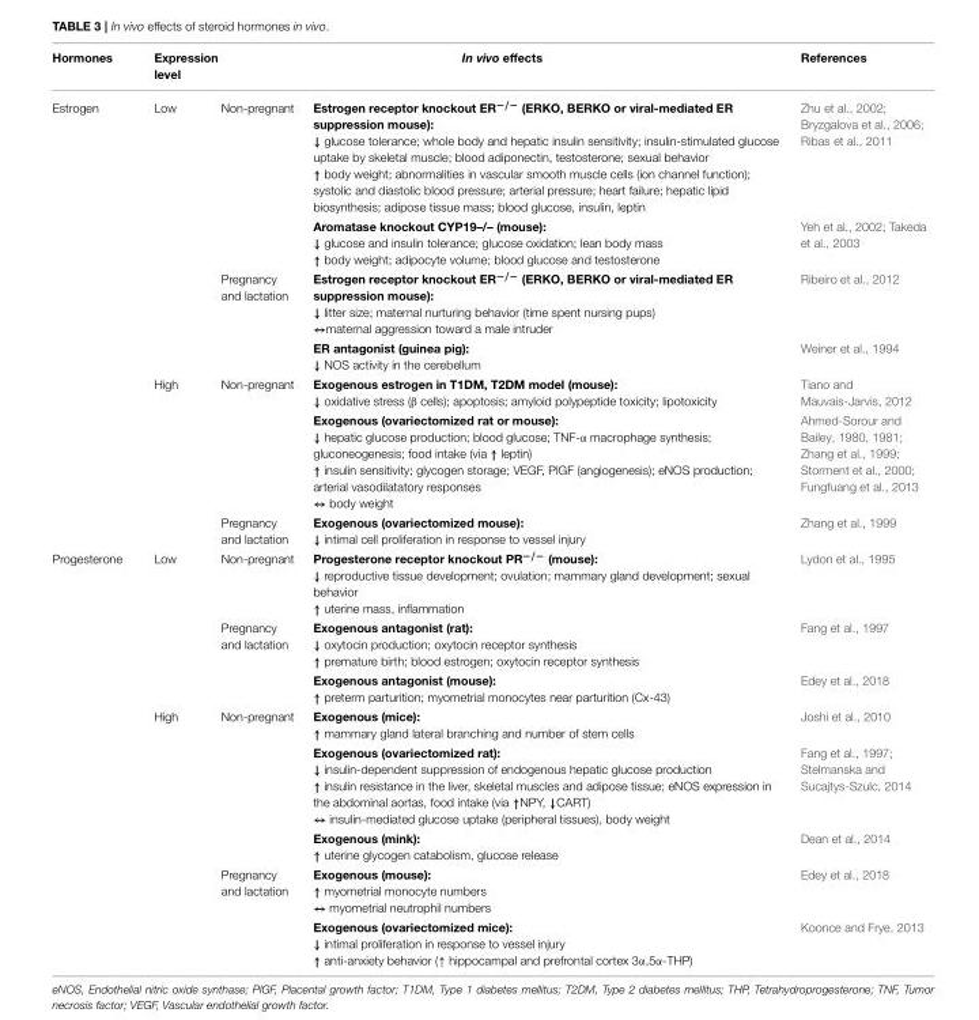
<table><thead><tr><td rowspan="2">Hormones Estrogen</td><td rowspan="2">Expression level Low</td><td colspan="2">In vivo effects</td><td rowspan="2">References Zhu et al., 2002; Bryzgalova et al., 2006; Ribas et al., 2011</td></tr><tr><td>Non-pregnant</td><td>Estrogen receptor knockout ER<sup>−/−</sup> (ERKO, BERKO or viral-mediated ER suppression mouse): ↓ glucose tolerance; whole body and hepatic insulin sensitivity; insulin-stimulated glucose uptake by skeletal muscle; blood adiponectin, testosterone; sexual behavior ↑ body weight; abnormalities in vascular smooth muscle cells (ion channel function); systolic and diastolic blood pressure; arterial pressure; heart failure; hepatic lipid biosynthesis; adipose tissue mass; blood glucose, insulin, leptin</td></tr></thead><tbody><tr><td></td><td></td><td></td><td>Aromatase knockout CYP19–/– (mouse): ↓ glucose and insulin tolerance; glucose oxidation; lean body mass ↑ body weight; adipocyte volume; blood glucose and testosterone</td><td>Yeh et al., 2002; Takeda et al., 2003</td></tr><tr><td></td><td></td><td>Pregnancy and lactation</td><td>Estrogen receptor knockout ER<sup>−/−</sup> (ERKO, BERKO or viral-mediated ER suppression mouse): ↓ litter size; maternal nurturing behavior (time spent nursing pups) ↔maternal aggression toward a male intruder</td><td>Ribeiro et al., 2012</td></tr><tr><td></td><td></td><td></td><td>ER antagonist (guinea pig): ↓ NOS activity in the cerebellum</td><td>Weiner et al., 1994</td></tr><tr><td></td><td>High</td><td>Non-pregnant</td><td>Exogenous estrogen in T1DM, T2DM model (mouse): ↓ oxidative stress (β cells); apoptosis; amyloid polypeptide toxicity; lipotoxicity</td><td>Tiano and Mauvais-Jarvis, 2012</td></tr><tr><td></td><td></td><td></td><td>Exogenous (ovariectomized rat or mouse): ↓ hepatic glucose production; blood glucose; TNF-α macrophage synthesis; gluconeogenesis; food intake (via ↑ leptin) ↑ insulin sensitivity; glycogen storage; VEGF, PlGF (angiogenesis); eNOS production; arterial vasodilatatory responses ↔ body weight</td><td>Ahmed-Sorour and Bailey, 1980, 1981; Zhang et al., 1999; Storment et al., 2000; Fungfuang et al., 2013</td></tr><tr><td></td><td></td><td>Pregnancy and lactation</td><td>Exogenous (ovariectomized mouse): ↓ intimal cell proliferation in response to vessel injury</td><td>Zhang et al., 1999</td></tr><tr><td rowspan="8">Progesterone</td><td>Low</td><td>Non-pregnant</td><td>Progesterone receptor knockout PR<sup>−/−</sup> (mouse): ↓ reproductive tissue development; ovulation; mammary gland development; sexual behavior ↑ uterine mass, inflammation</td><td>Lydon et al., 1995</td></tr><tr><td></td><td>Pregnancy and lactation</td><td>Exogenous antagonist (rat): ↓ oxytocin production; oxytocin receptor synthesis ↑ premature birth; blood estrogen; oxytocin receptor synthesis</td><td>Fang et al., 1997</td></tr><tr><td></td><td></td><td>Exogenous antagonist (mouse): ↑ preterm parturition; myometrial monocytes near parturition (Cx-43)</td><td>Edey et al., 2018</td></tr><tr><td>High</td><td>Non-pregnant</td><td>Exogenous (mice): ↑ mammary gland lateral branching and number of stem cells</td><td>Joshi et al., 2010</td></tr><tr><td></td><td></td><td>Exogenous (ovariectomized rat): ↓ insulin-dependent suppression of endogenous hepatic glucose production ↑ insulin resistance in the liver, skeletal muscles and adipose tissue; eNOS expression in the abdominal aortas, food intake (via ↑NPY, ↓CART) ↔ insulin-mediated glucose uptake (peripheral tissues), body weight</td><td>Fang et al., 1997; Stelmanska and Sucajtys-Szulc, 2014</td></tr><tr><td></td><td></td><td>Exogenous (mink): ↑ uterine glycogen catabolism, glucose release</td><td>Dean et al., 2014</td></tr><tr><td></td><td>Pregnancy and lactation</td><td>Exogenous (mouse): ↑ myometrial monocyte numbers ↔ myometrial neutrophil numbers</td><td>Edey et al., 2018</td></tr><tr><td></td><td></td><td>Exogenous (ovariectomized mice): ↓ intimal proliferation in response to vessel injury ↑ anti-anxiety behavior (↑ hippocampal and prefrontal cortex 3α,5α-THP)</td><td>Koonce and Frye, 2013</td></tr></tbody></table>